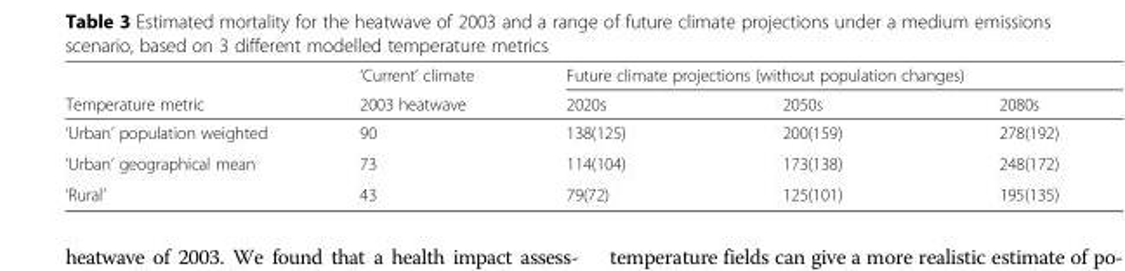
<table><thead><tr><td rowspan="2">Temperature metric</td><td rowspan="2">‘Current’ climate 2003 heatwave</td><td colspan="3">Future climate projections (without population changes)</td></tr><tr><td>2020s</td><td>2050s</td><td>2080s</td></tr></thead><tbody><tr><td>‘Urban’ population weighted</td><td>90</td><td>138(125)</td><td>200(159)</td><td>278(192)</td></tr><tr><td>‘Urban’ geographical mean</td><td>73</td><td>114(104)</td><td>173(138)</td><td>248(172)</td></tr><tr><td>‘Rural’</td><td>43</td><td>79(72)</td><td>125(101)</td><td>195(135)</td></tr></tbody></table>